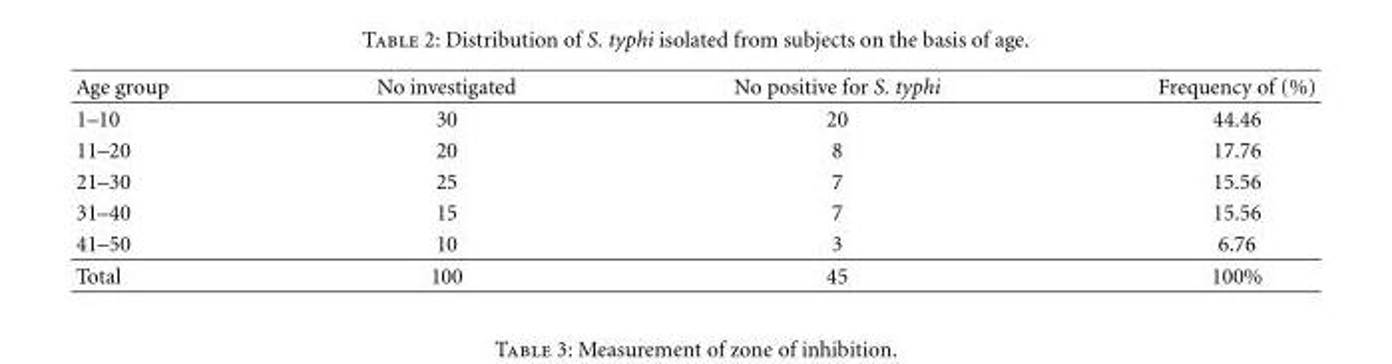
<table><thead><tr><td>Age group</td><td>No investigated</td><td>No positive for S. typhi</td><td>Frequency of (%)</td></tr></thead><tbody><tr><td>1–10</td><td>30</td><td>20</td><td>44.46</td></tr><tr><td>11–20</td><td>20</td><td>8</td><td>17.76</td></tr><tr><td>21–30</td><td>25</td><td>7</td><td>15.56</td></tr><tr><td>31–40</td><td>15</td><td>7</td><td>15.56</td></tr><tr><td>41–50</td><td>10</td><td>3</td><td>6.76</td></tr><tr><td>Total</td><td>100</td><td>45</td><td>100%</td></tr></tbody></table>